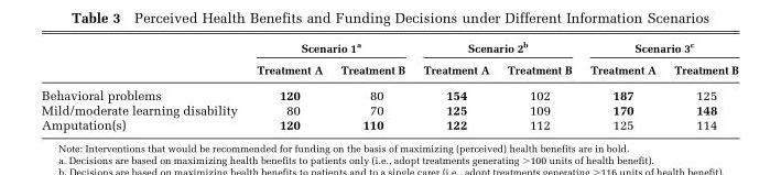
<table><thead><tr><td rowspan="2"></td><td colspan="2">Scenario 1<sup>a</sup></td><td colspan="2">Scenario 2<sup>b</sup></td><td colspan="2">Scenario 3<sup>c</sup></td></tr><tr><td>Treatment A</td><td>Treatment B</td><td>Treatment A</td><td>Treatment B</td><td>Treatment A</td><td>Treatment B</td></tr></thead><tbody><tr><td>Behavioral problems</td><td>120</td><td>80</td><td>154</td><td>102</td><td>187</td><td>125</td></tr><tr><td>Mild/moderate learning disability</td><td>80</td><td>70</td><td>125</td><td>109</td><td>170</td><td>148</td></tr><tr><td>Amputation(s)</td><td>120</td><td>110</td><td>122</td><td>112</td><td>125</td><td>114</td></tr></tbody></table>